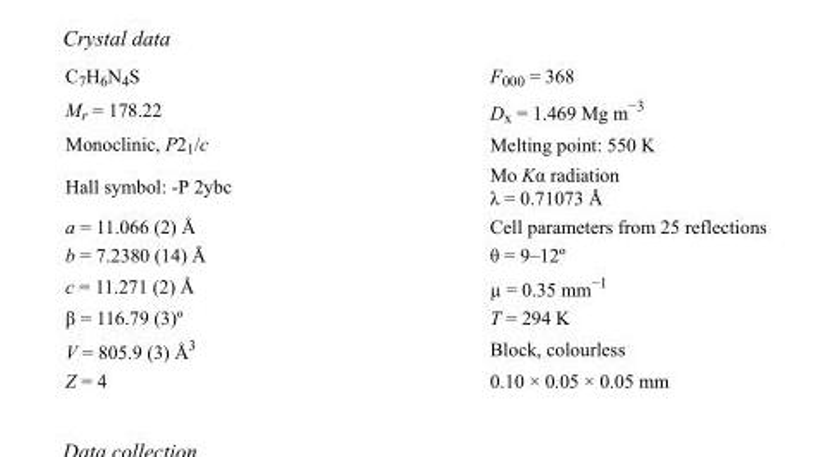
<table><tbody><tr><td>C<sub>7</sub>H<sub>6</sub>N<sub>4</sub>S</td><td>F000 = 368</td></tr><tr><td>M<sub>r</sub> = 178.22</td><td>D<sub>x</sub> = 1.469 Mg m<sup>−3</sup></td></tr><tr><td>Monoclinic, P2<sub>1</sub>/c</td><td>Melting point: 550 K</td></tr><tr><td>Hall symbol: -P 2ybc</td><td>Mo Kα radiation λ = 0.71073 Å</td></tr><tr><td>a = 11.066 (2) Å</td><td>Cell parameters from 25 reflections</td></tr><tr><td>b = 7.2380 (14) Å</td><td>θ = 9–12º</td></tr><tr><td>c = 11.271 (2) Å</td><td>µ = 0.35 mm<sup>−1</sup></td></tr><tr><td>β = 116.79 (3)º</td><td>T = 294 K</td></tr><tr><td>V = 805.9 (3) Å<sup>3</sup></td><td>Block, colourless</td></tr><tr><td>Z = 4</td><td>0.10 × 0.05 × 0.05 mm</td></tr></tbody></table>